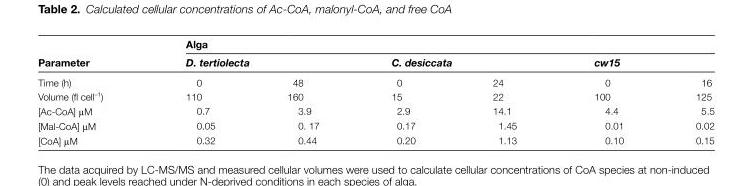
<table><thead><tr><td rowspan="3">Parameter Time (h)</td><td colspan="6">Alga</td></tr><tr><td colspan="2">D. tertiolecta</td><td colspan="2">C. desiccata</td><td colspan="2">cw15</td></tr><tr><td>0</td><td>48</td><td>0</td><td>24</td><td>0</td><td>16</td></tr></thead><tbody><tr><td>Volume (fl cell<sup>–1</sup>)</td><td>110</td><td>160</td><td>15</td><td>22</td><td>100</td><td>125</td></tr><tr><td>[Ac-CoA] μM</td><td>0.7</td><td>3.9</td><td>2.9</td><td>14.1</td><td>4.4</td><td>5.5</td></tr><tr><td>[Mal-CoA] μM</td><td>0.05</td><td>0. 17</td><td>0.17</td><td>1.45</td><td>0.01</td><td>0.02</td></tr><tr><td>[CoA] μM</td><td>0.32</td><td>0.44</td><td>0.20</td><td>1.13</td><td>0.10</td><td>0.15</td></tr></tbody></table>